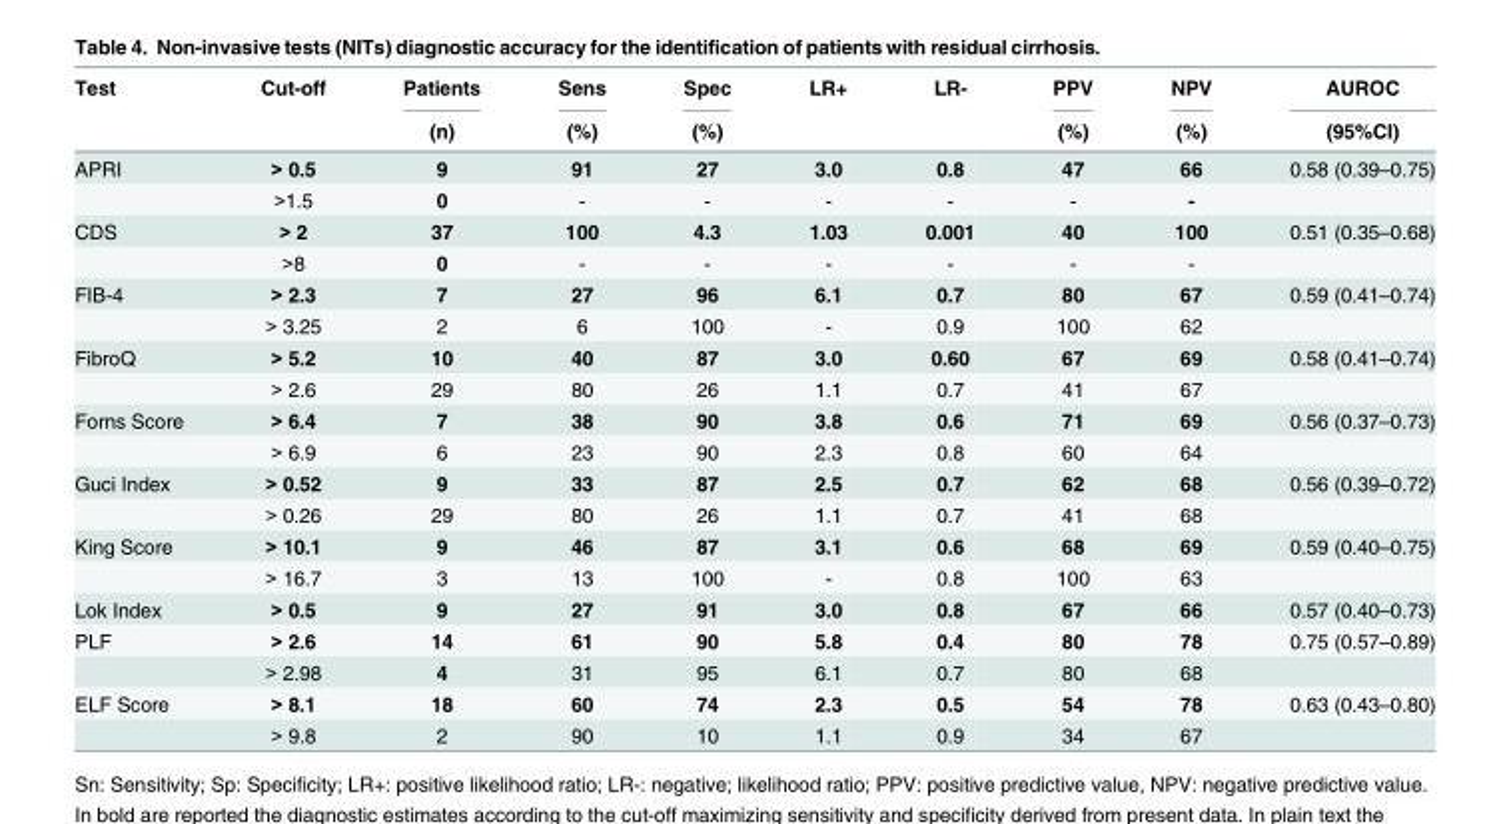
<table><thead><tr><td rowspan="2">Test</td><td rowspan="2">Cut-off</td><td rowspan="2">Patients (n)</td><td rowspan="2">Sens (%)</td><td rowspan="2">Spec (%)</td><td rowspan="2">LR+</td><td rowspan="2">LR-</td><td rowspan="2">PPV (%)</td><td rowspan="2">NPV (%)</td><td rowspan="2">AUROC (95%CI)</td></tr><tr></tr></thead><tbody><tr><td rowspan="2">APRI</td><td>&gt; 0.5</td><td>9</td><td>91</td><td>27</td><td>3.0</td><td>0.8</td><td>47</td><td>66</td><td>0.58 (0.39–0.75)</td></tr><tr><td>&gt;1.5</td><td>0</td><td>-</td><td>-</td><td>-</td><td>-</td><td>-</td><td>-</td><td></td></tr><tr><td rowspan="2">CDS</td><td>&gt; 2</td><td>37</td><td>100</td><td>4.3</td><td>1.03</td><td>0.001</td><td>40</td><td>100</td><td>0.51 (0.35–0.68)</td></tr><tr><td>&gt;8</td><td>0</td><td>-</td><td>-</td><td>-</td><td>-</td><td>-</td><td>-</td><td></td></tr><tr><td rowspan="2">FIB-4</td><td>&gt; 2.3</td><td>7</td><td>27</td><td>96</td><td>6.1</td><td>0.7</td><td>80</td><td>67</td><td>0.59 (0.41–0.74)</td></tr><tr><td>&gt; 3.25</td><td>2</td><td>6</td><td>100</td><td>-</td><td>0.9</td><td>100</td><td>62</td><td></td></tr><tr><td rowspan="2">FibroQ</td><td>&gt; 5.2</td><td>10</td><td>40</td><td>87</td><td>3.0</td><td>0.60</td><td>67</td><td>69</td><td>0.58 (0.41–0.74)</td></tr><tr><td>&gt; 2.6</td><td>29</td><td>80</td><td>26</td><td>1.1</td><td>0.7</td><td>41</td><td>67</td><td></td></tr><tr><td rowspan="2">Forns Score</td><td>&gt; 6.4</td><td>7</td><td>38</td><td>90</td><td>3.8</td><td>0.6</td><td>71</td><td>69</td><td>0.56 (0.37–0.73)</td></tr><tr><td>&gt; 6.9</td><td>6</td><td>23</td><td>90</td><td>2.3</td><td>0.8</td><td>60</td><td>64</td><td></td></tr><tr><td rowspan="2">Guci Index</td><td>&gt; 0.52</td><td>9</td><td>33</td><td>87</td><td>2.5</td><td>0.7</td><td>62</td><td>68</td><td>0.56 (0.39–0.72)</td></tr><tr><td>&gt; 0.26</td><td>29</td><td>80</td><td>26</td><td>1.1</td><td>0.7</td><td>41</td><td>68</td><td></td></tr><tr><td rowspan="2">King Score</td><td>&gt; 10.1</td><td>9</td><td>46</td><td>87</td><td>3.1</td><td>0.6</td><td>68</td><td>69</td><td>0.59 (0.40–0.75)</td></tr><tr><td>&gt; 16.7</td><td>3</td><td>13</td><td>100</td><td>-</td><td>0.8</td><td>100</td><td>63</td><td></td></tr><tr><td>Lok Index</td><td>&gt; 0.5</td><td>9</td><td>27</td><td>91</td><td>3.0</td><td>0.8</td><td>67</td><td>66</td><td>0.57 (0.40–0.73)</td></tr><tr><td rowspan="2">PLF</td><td>&gt; 2.6</td><td>14</td><td>61</td><td>90</td><td>5.8</td><td>0.4</td><td>80</td><td>78</td><td>0.75 (0.57–0.89)</td></tr><tr><td>&gt; 2.98</td><td>4</td><td>31</td><td>95</td><td>6.1</td><td>0.7</td><td>80</td><td>68</td><td></td></tr><tr><td rowspan="2">ELF Score</td><td>&gt; 8.1</td><td>18</td><td>60</td><td>74</td><td>2.3</td><td>0.5</td><td>54</td><td>78</td><td>0.63 (0.43–0.80)</td></tr><tr><td>&gt; 9.8</td><td>2</td><td>90</td><td>10</td><td>1.1</td><td>0.9</td><td>34</td><td>67</td><td></td></tr></tbody></table>